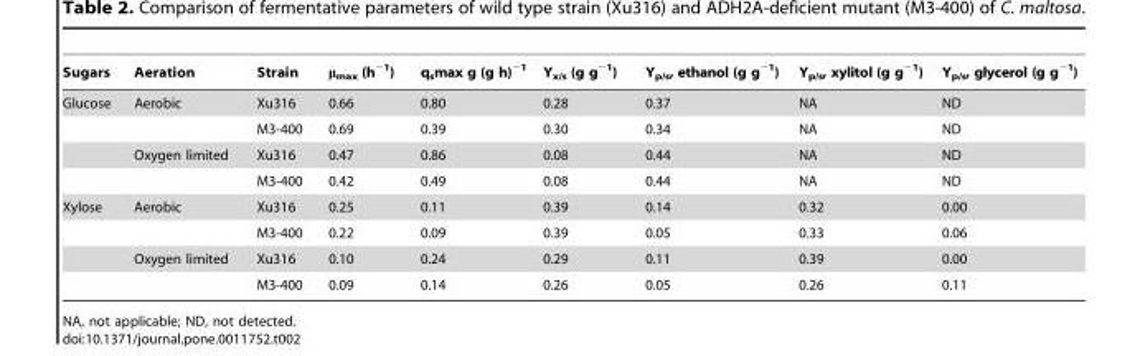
<table><thead><tr><td>Sugars</td><td>Aeration</td><td>Strain</td><td>μ<sub>max</sub> (h<sup>−1</sup>)</td><td>q<sub>s</sub>max g (g h)<sup>−1</sup></td><td>Y<sub>x/s</sub> (g g<sup>−1</sup>)</td><td>Y<sub>p/s</sub>, ethanol (g g<sup>−1</sup>)</td><td>Y<sub>p/s</sub>, xylitol (g g<sup>−1</sup>)</td><td>Y<sub>p/s</sub>, glycerol (g g<sup>−1</sup>)</td></tr></thead><tbody><tr><td rowspan="4">Glucose</td><td>Aerobic</td><td>Xu316</td><td>0.66</td><td>0.80</td><td>0.28</td><td>0.37</td><td>NA</td><td>ND</td></tr><tr><td></td><td>M3-400</td><td>0.69</td><td>0.39</td><td>0.30</td><td>0.34</td><td>NA</td><td>ND</td></tr><tr><td>Oxygen limited</td><td>Xu316</td><td>0.47</td><td>0.86</td><td>0.08</td><td>0.44</td><td>NA</td><td>ND</td></tr><tr><td></td><td>M3-400</td><td>0.42</td><td>0.49</td><td>0.08</td><td>0.44</td><td>NA</td><td>ND</td></tr><tr><td rowspan="4">Xylose</td><td>Aerobic</td><td>Xu316</td><td>0.25</td><td>0.11</td><td>0.39</td><td>0.14</td><td>0.32</td><td>0.00</td></tr><tr><td></td><td>M3-400</td><td>0.22</td><td>0.09</td><td>0.39</td><td>0.05</td><td>0.33</td><td>0.06</td></tr><tr><td>Oxygen limited</td><td>Xu316</td><td>0.10</td><td>0.24</td><td>0.29</td><td>0.11</td><td>0.39</td><td>0.00</td></tr><tr><td></td><td>M3-400</td><td>0.09</td><td>0.14</td><td>0.26</td><td>0.05</td><td>0.26</td><td>0.11</td></tr></tbody></table>